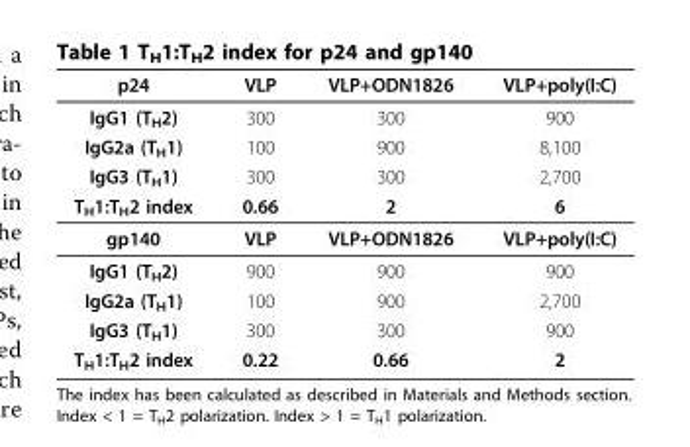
<table><thead><tr><td>p24</td><td>VLP</td><td>VLP+ODN1826</td><td>VLP+poly(I:C)</td></tr></thead><tbody><tr><td>IgG1 (T<sub>H</sub>2)</td><td>300</td><td>300</td><td>900</td></tr><tr><td>IgG2a (T<sub>H</sub>1)</td><td>100</td><td>900</td><td>8,100</td></tr><tr><td>IgG3 (T<sub>H</sub>1)</td><td>300</td><td>300</td><td>2,700</td></tr><tr><td>T<sub>H</sub>1:T<sub>H</sub>2 index</td><td>0.66</td><td>2</td><td>6</td></tr><tr><td>gp140</td><td>VLP</td><td>VLP+ODN1826</td><td>VLP+poly(I:C)</td></tr><tr><td>IgG1 (T<sub>H</sub>2)</td><td>900</td><td>900</td><td>900</td></tr><tr><td>IgG2a (T<sub>H</sub>1)</td><td>100</td><td>900</td><td>2,700</td></tr><tr><td>IgG3 (T<sub>H</sub>1)</td><td>300</td><td>300</td><td>900</td></tr><tr><td>T<sub>H</sub>1:T<sub>H</sub>2 index</td><td>0.22</td><td>0.66</td><td>2</td></tr></tbody></table>